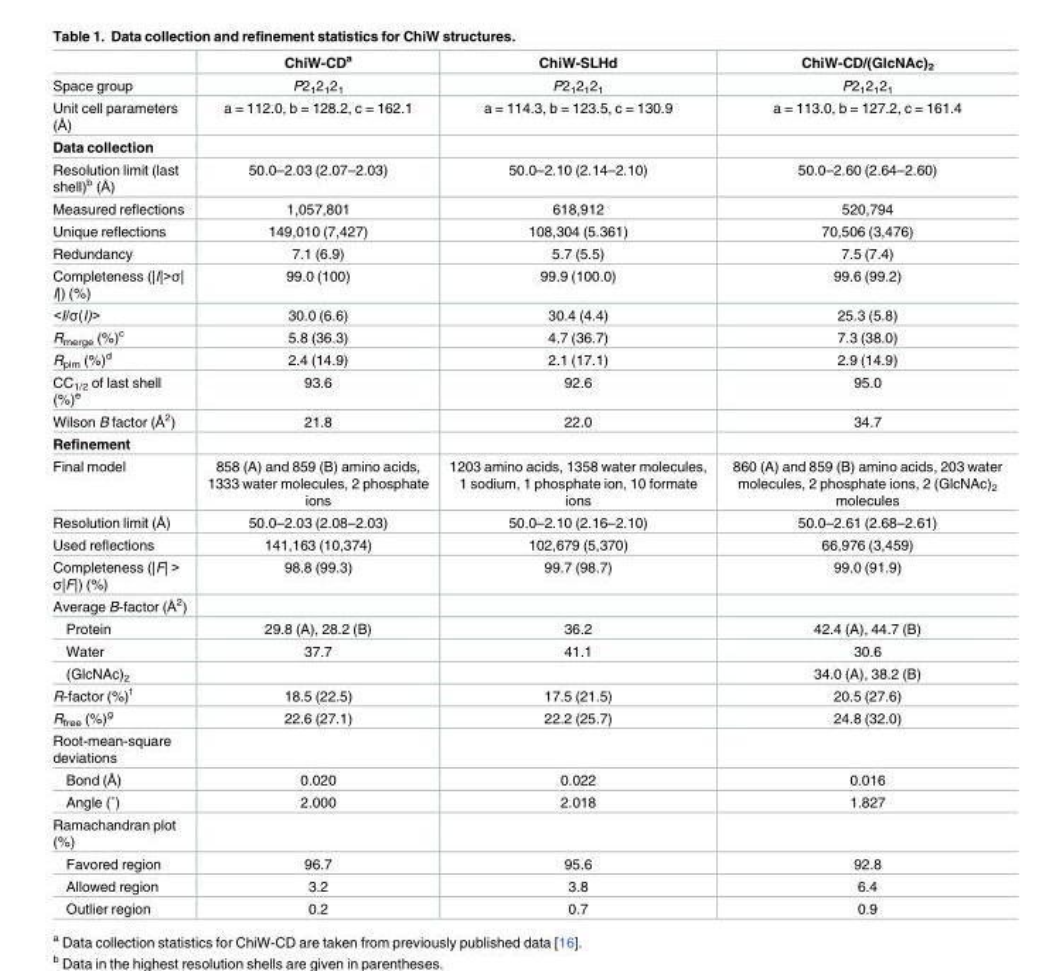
<table><thead><tr><td></td><td>ChiW-CD<sup>a</sup></td><td>ChiW-SLHd</td><td>ChiW-CD/(GlcNAc)<sub>2</sub></td></tr></thead><tbody><tr><td>Space group</td><td>P2<sub>1</sub>2<sub>1</sub>2<sub>1</sub></td><td>P2<sub>1</sub>2<sub>1</sub>2<sub>1</sub></td><td>P2<sub>1</sub>2<sub>1</sub>2<sub>1</sub></td></tr><tr><td>Unit cell parameters (Å)</td><td>a = 112.0, b = 128.2, c = 162.1</td><td>a = 114.3, b = 123.5, c = 130.9</td><td>a = 113.0, b = 127.2, c = 161.4</td></tr><tr><td colspan="4">Data collection</td></tr><tr><td>Resolution limit (last shell)<sup>b</sup> (Å)</td><td>50.0–2.03 (2.07–2.03)</td><td>50.0–2.10 (2.14–2.10)</td><td>50.0–2.60 (2.64–2.60)</td></tr><tr><td>Measured reflections</td><td>1,057,801</td><td>618,912</td><td>520,794</td></tr><tr><td>Unique reflections</td><td>149,010 (7,427)</td><td>108,304 (5.361)</td><td>70,506 (3,476)</td></tr><tr><td>Redundancy</td><td>7.1 (6.9)</td><td>5.7 (5.5)</td><td>7.5 (7.4)</td></tr><tr><td>Completeness (|I|&gt;σ| I|) (%)</td><td>99.0 (100)</td><td>99.9 (100.0)</td><td>99.6 (99.2)</td></tr><tr><td>&lt;I/σ(I)&gt;</td><td>30.0 (6.6)</td><td>30.4 (4.4)</td><td>25.3 (5.8)</td></tr><tr><td>R<sub>merge</sub> (%)<sup>c</sup></td><td>5.8 (36.3)</td><td>4.7 (36.7)</td><td>7.3 (38.0)</td></tr><tr><td>R<sub>pim</sub> (%)<sup>d</sup></td><td>2.4 (14.9)</td><td>2.1 (17.1)</td><td>2.9 (14.9)</td></tr><tr><td>CC<sub>1/2</sub> of last shell (%)<sup>e</sup></td><td>93.6</td><td>92.6</td><td>95.0</td></tr><tr><td>Wilson B factor (Å<sup>2</sup>)</td><td>21.8</td><td>22.0</td><td>34.7</td></tr><tr><td colspan="4">Refinement</td></tr><tr><td>Final model</td><td>858 (A) and 859 (B) amino acids, 1333 water molecules, 2 phosphate ions</td><td>1203 amino acids, 1358 water molecules, 1 sodium, 1 phosphate ion, 10 formate ions</td><td>860 (A) and 859 (B) amino acids, 203 water molecules, 2 phosphate ions, 2 (GlcNAc)<sub>2</sub> molecules</td></tr><tr><td>Resolution limit (Å)</td><td>50.0–2.03 (2.08–2.03)</td><td>50.0–2.10 (2.16–2.10)</td><td>50.0–2.61 (2.68–2.61)</td></tr><tr><td>Used reflections</td><td>141,163 (10,374)</td><td>102,679 (5,370)</td><td>66,976 (3,459)</td></tr><tr><td>Completeness (|F| &gt; σ|F|) (%)</td><td>98.8 (99.3)</td><td>99.7 (98.7)</td><td>99.0 (91.9)</td></tr><tr><td colspan="4">Average B-factor (Å<sup>2</sup>)</td></tr><tr><td>Protein</td><td>29.8 (A), 28.2 (B)</td><td>36.2</td><td>42.4 (A), 44.7 (B)</td></tr><tr><td>Water</td><td>37.7</td><td>41.1</td><td>30.6</td></tr><tr><td>(GlcNAc)<sub>2</sub></td><td></td><td></td><td>34.0 (A), 38.2 (B)</td></tr><tr><td>R-factor (%)<sup>f</sup></td><td>18.5 (22.5)</td><td>17.5 (21.5)</td><td>20.5 (27.6)</td></tr><tr><td>R<sub>free</sub> (%)<sup>g</sup></td><td>22.6 (27.1)</td><td>22.2 (25.7)</td><td>24.8 (32.0)</td></tr><tr><td colspan="4">Root-mean-square deviations</td></tr><tr><td>Bond (Å)</td><td>0.020</td><td>0.022</td><td>0.016</td></tr><tr><td>Angle (˚)</td><td>2.000</td><td>2.018</td><td>1.827</td></tr><tr><td colspan="4">Ramachandran plot (%)</td></tr><tr><td>Favored region</td><td>96.7</td><td>95.6</td><td>92.8</td></tr><tr><td>Allowed region</td><td>3.2</td><td>3.8</td><td>6.4</td></tr><tr><td>Outlier region</td><td>0.2</td><td>0.7</td><td>0.9</td></tr></tbody></table>